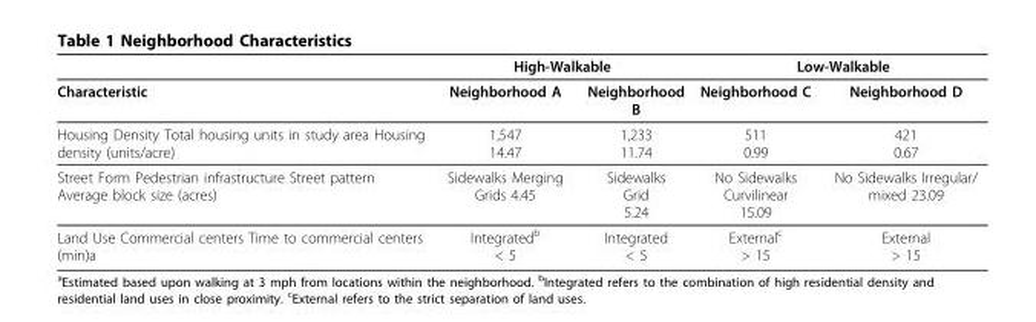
<table><thead><tr><td rowspan="2">Characteristic</td><td colspan="2">High-Walkable</td><td colspan="2">Low-Walkable</td></tr><tr><td>Neighborhood A</td><td>Neighborhood B</td><td>Neighborhood C</td><td>Neighborhood D</td></tr></thead><tbody><tr><td>Housing Density Total housing units in study area Housing density (units/acre)</td><td>1,547 14.47</td><td>1,233 11.74</td><td>511 0.99</td><td>421 0.67</td></tr><tr><td>Street Form Pedestrian infrastructure Street pattern Average block size (acres)</td><td>Sidewalks Merging Grids 4.45</td><td>Sidewalks Grid 5.24</td><td>No Sidewalks Curvilinear 15.09</td><td>No Sidewalks Irregular/ mixed 23.09</td></tr><tr><td>Land Use Commercial centers Time to commercial centers (min)a</td><td>Integrated<sup>b</sup> &lt; 5</td><td>Integrated &lt; 5</td><td>External<sup>c</sup> &gt; 15</td><td>External &gt; 15</td></tr></tbody></table>